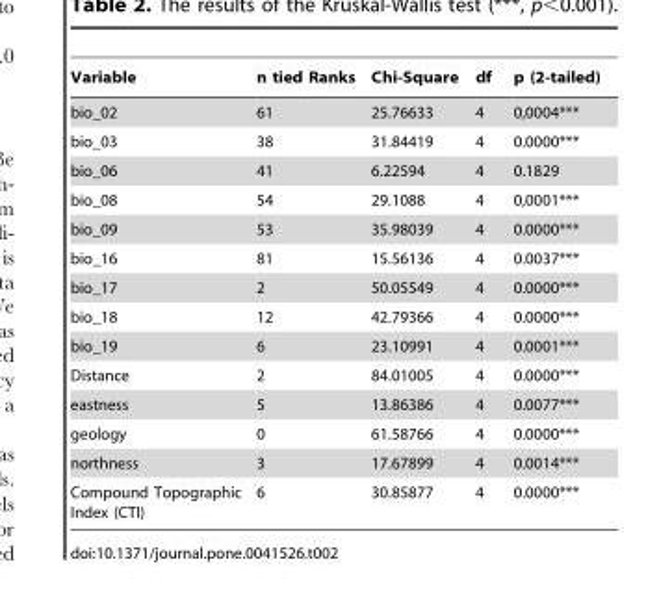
<table><thead><tr><td>Variable</td><td>n tied Ranks</td><td>Chi-Square</td><td>df</td><td>p (2-tailed)</td></tr></thead><tbody><tr><td>bio_02</td><td>61</td><td>25.76633</td><td>4</td><td>0,0004***</td></tr><tr><td>bio_03</td><td>38</td><td>31.84419</td><td>4</td><td>0.0000***</td></tr><tr><td>bio_06</td><td>41</td><td>6.22594</td><td>4</td><td>0.1829</td></tr><tr><td>bio_08</td><td>54</td><td>29.1088</td><td>4</td><td>0,0001***</td></tr><tr><td>bio_09</td><td>53</td><td>35.98039</td><td>4</td><td>0.0000***</td></tr><tr><td>bio_16</td><td>81</td><td>15.56136</td><td>4</td><td>0.0037***</td></tr><tr><td>bio_17</td><td>2</td><td>50.05549</td><td>4</td><td>0.0000***</td></tr><tr><td>bio_18</td><td>12</td><td>42.79366</td><td>4</td><td>0.0000***</td></tr><tr><td>bio_19</td><td>6</td><td>23.10991</td><td>4</td><td>0.0001***</td></tr><tr><td>Distance</td><td>2</td><td>84.01005</td><td>4</td><td>0.0000***</td></tr><tr><td>eastness</td><td>5</td><td>13.86386</td><td>4</td><td>0.0077***</td></tr><tr><td>geology</td><td>0</td><td>61.58766</td><td>4</td><td>0.0000***</td></tr><tr><td>northness</td><td>3</td><td>17.67899</td><td>4</td><td>0.0014***</td></tr><tr><td>Compound Topographic Index (CTI)</td><td>6</td><td>30.85877</td><td>4</td><td>0.0000***</td></tr></tbody></table>